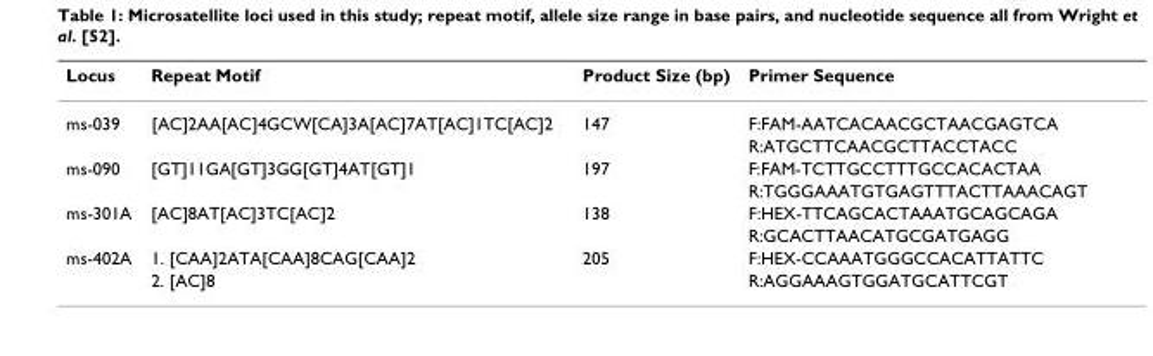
<table><thead><tr><td>Locus</td><td>Repeat Motif</td><td>Product Size (bp)</td><td>Primer Sequence</td></tr></thead><tbody><tr><td rowspan="2">ms-039</td><td>[AC]2AA[AC]4GCW[CA]3A[AC]7AT[AC]1TC[AC]2</td><td>147</td><td>F:FAM-AATCACAACGCTAACGAGTCA</td></tr><tr><td></td><td></td><td>R:ATGCTTCAACGCTTACCTACC</td></tr><tr><td rowspan="2">ms-090</td><td>[GT]11GA[GT]3GG[GT]4AT[GT]1</td><td>197</td><td>F:FAM-TCTTGCCTTTGCCACACTAA</td></tr><tr><td></td><td></td><td>R:TGGGAAATGTGAGTTTACTTAAACAGT</td></tr><tr><td rowspan="2">ms-301A</td><td>[AC]8AT[AC]3TC[AC]2</td><td>138</td><td>F:HEX-TTCAGCACTAAATGCAGCAGA</td></tr><tr><td></td><td></td><td>R:GCACTTAACATGCGATGAGG</td></tr><tr><td rowspan="2">ms-402A</td><td>1. [CAA]2ATA[CAA]8CAG[CAA]2</td><td>205</td><td>F:HEX-CCAAATGGGCCACATTATTC</td></tr><tr><td>2. [AC]8</td><td></td><td>R:AGGAAAGTGGATGCATTCGT</td></tr></tbody></table>